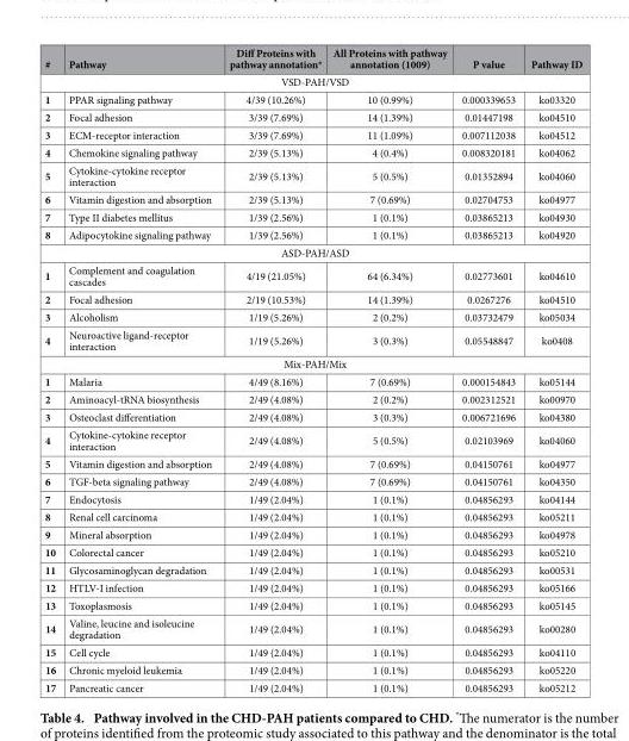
<table><thead><tr><td>#</td><td>Pathway</td><td>Diff Proteins with pathway annotation*</td><td>All Proteins with pathway annotation (1009)</td><td>P value</td><td>Pathway ID</td></tr></thead><tbody><tr><td colspan="6">VSD-PAH/VSD</td></tr><tr><td>1</td><td>PPAR signaling pathway</td><td>4/39 (10.26%)</td><td>10 (0.99%)</td><td>0.000339653</td><td>ko03320</td></tr><tr><td>2</td><td>Focal adhesion</td><td>3/39 (7.69%)</td><td>14 (1.39%)</td><td>0.01447198</td><td>ko04510</td></tr><tr><td>3</td><td>ECM-receptor interaction</td><td>3/39 (7.69%)</td><td>11 (1.09%)</td><td>0.007112038</td><td>ko04512</td></tr><tr><td>4</td><td>Chemokine signaling pathway</td><td>2/39 (5.13%)</td><td>4 (0.4%)</td><td>0.008320181</td><td>ko04062</td></tr><tr><td>5</td><td>Cytokine-cytokine receptor interaction</td><td>2/39 (5.13%)</td><td>5 (0.5%)</td><td>0.01352894</td><td>ko04060</td></tr><tr><td>6</td><td>Vitamin digestion and absorption</td><td>2/39 (5.13%)</td><td>7 (0.69%)</td><td>0.02704753</td><td>ko04977</td></tr><tr><td>7</td><td>Type II diabetes mellitus</td><td>1/39 (2.56%)</td><td>1 (0.1%)</td><td>0.03865213</td><td>ko04930</td></tr><tr><td>8</td><td>Adipocytokine signaling pathway</td><td>1/39 (2.56%)</td><td>1 (0.1%)</td><td>0.03865213</td><td>ko04920</td></tr><tr><td colspan="6">ASD-PAH/ASD</td></tr><tr><td>1</td><td>Complement and coagulation cascades</td><td>4/19 (21.05%)</td><td>64 (6.34%)</td><td>0.02773601</td><td>ko04610</td></tr><tr><td>2</td><td>Focal adhesion</td><td>2/19 (10.53%)</td><td>14 (1.39%)</td><td>0.0267276</td><td>ko04510</td></tr><tr><td>3</td><td>Alcoholism</td><td>1/19 (5.26%)</td><td>2 (0.2%)</td><td>0.03732479</td><td>ko05034</td></tr><tr><td>4</td><td>Neuroactive ligand-receptor interaction</td><td>1/19 (5.26%)</td><td>3 (0.3%)</td><td>0.05548847</td><td>ko0408</td></tr><tr><td colspan="6">Mix-PAH/Mix</td></tr><tr><td>1</td><td>Malaria</td><td>4/49 (8.16%)</td><td>7 (0.69%)</td><td>0.000154843</td><td>ko05144</td></tr><tr><td>2</td><td>Aminoacyl-tRNA biosynthesis</td><td>2/49 (4.08%)</td><td>2 (0.2%)</td><td>0.002312521</td><td>ko00970</td></tr><tr><td>3</td><td>Osteoclast differentiation</td><td>2/49 (4.08%)</td><td>3 (0.3%)</td><td>0.006721696</td><td>ko04380</td></tr><tr><td>4</td><td>Cytokine-cytokine receptor interaction</td><td>2/49 (4.08%)</td><td>5 (0.5%)</td><td>0.02103969</td><td>ko04060</td></tr><tr><td>5</td><td>Vitamin digestion and absorption</td><td>2/49 (4.08%)</td><td>7 (0.69%)</td><td>0.04150761</td><td>ko04977</td></tr><tr><td>6</td><td>TGF-beta signaling pathway</td><td>2/49 (4.08%)</td><td>7 (0.69%)</td><td>0.04150761</td><td>ko04350</td></tr><tr><td>7</td><td>Endocytosis</td><td>1/49 (2.04%)</td><td>1 (0.1%)</td><td>0.04856293</td><td>ko04144</td></tr><tr><td>8</td><td>Renal cell carcinoma</td><td>1/49 (2.04%)</td><td>1 (0.1%)</td><td>0.04856293</td><td>ko05211</td></tr><tr><td>9</td><td>Mineral absorption</td><td>1/49 (2.04%)</td><td>1 (0.1%)</td><td>0.04856293</td><td>ko04978</td></tr><tr><td>10</td><td>Colorectal cancer</td><td>1/49 (2.04%)</td><td>1 (0.1%)</td><td>0.04856293</td><td>ko05210</td></tr><tr><td>11</td><td>Glycosaminoglycan degradation</td><td>1/49 (2.04%)</td><td>1 (0.1%)</td><td>0.04856293</td><td>ko00531</td></tr><tr><td>12</td><td>HTLV-I infection</td><td>1/49 (2.04%)</td><td>1 (0.1%)</td><td>0.04856293</td><td>ko05166</td></tr><tr><td>13</td><td>Toxoplasmosis</td><td>1/49 (2.04%)</td><td>1 (0.1%)</td><td>0.04856293</td><td>ko05145</td></tr><tr><td>14</td><td>Valine, leucine and isoleucine degradation</td><td>1/49 (2.04%)</td><td>1 (0.1%)</td><td>0.04856293</td><td>ko00280</td></tr><tr><td>15</td><td>Cell cycle</td><td>1/49 (2.04%)</td><td>1 (0.1%)</td><td>0.04856293</td><td>ko04110</td></tr><tr><td>16</td><td>Chronic myeloid leukemia</td><td>1/49 (2.04%)</td><td>1 (0.1%)</td><td>0.04856293</td><td>ko05220</td></tr><tr><td>17</td><td>Pancreatic cancer</td><td>1/49 (2.04%)</td><td>1 (0.1%)</td><td>0.04856293</td><td>ko05212</td></tr></tbody></table>